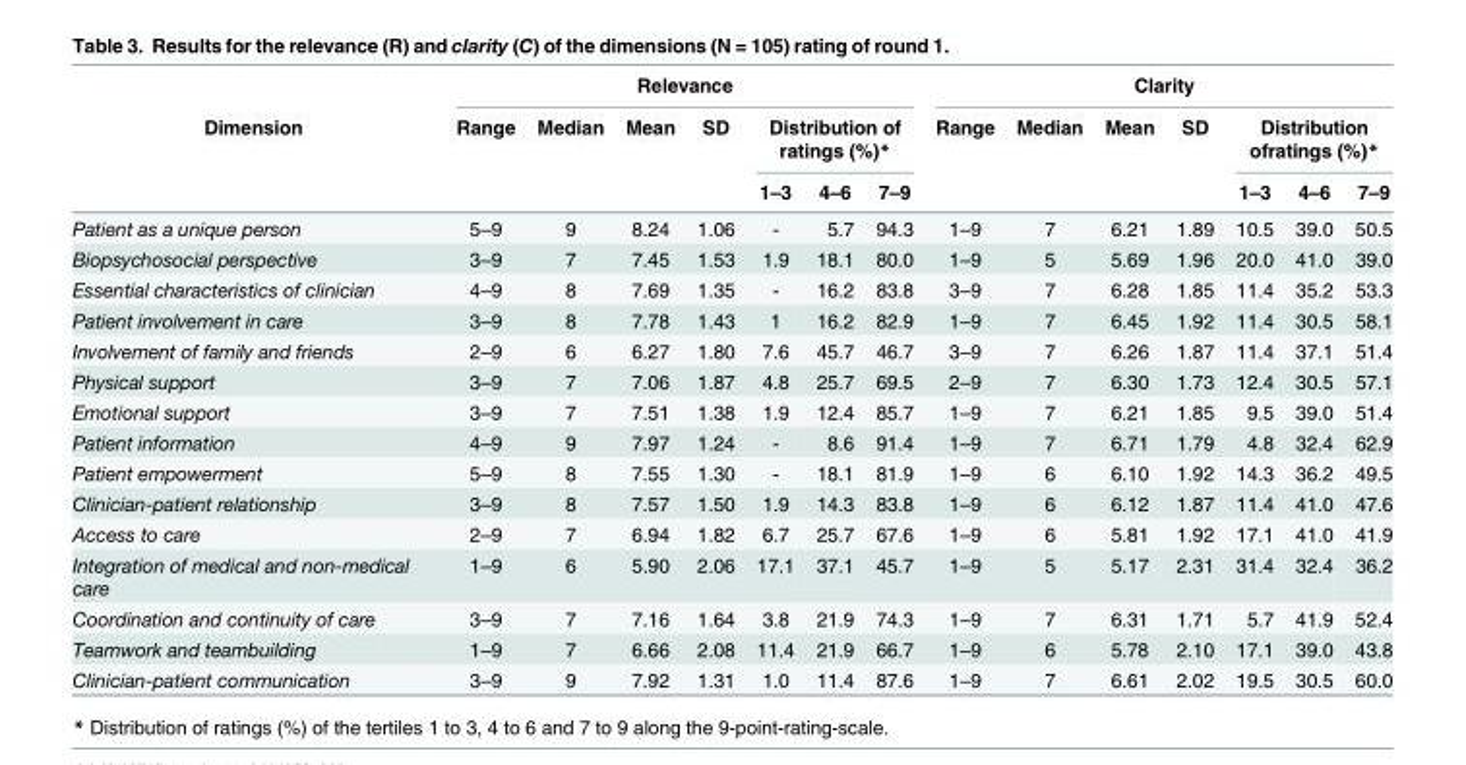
<table><thead><tr><td rowspan="3">Dimension</td><td colspan="7">Relevance</td><td colspan="7">Clarity</td></tr><tr><td rowspan="2">Range</td><td rowspan="2">Median</td><td rowspan="2">Mean</td><td rowspan="2">SD</td><td colspan="3">Distribution of ratings (%)*</td><td rowspan="2">Range</td><td rowspan="2">Median</td><td rowspan="2">Mean</td><td rowspan="2">SD</td><td colspan="3">Distribution ofratings (%)*</td></tr><tr><td>1–3</td><td>4–6</td><td>7–9</td><td>1–3</td><td>4–6</td><td>7–9</td></tr></thead><tbody><tr><td>Patient as a unique person</td><td>5–9</td><td>9</td><td>8.24</td><td>1.06</td><td>-</td><td>5.7</td><td>94.3</td><td>1–9</td><td>7</td><td>6.21</td><td>1.89</td><td>10.5</td><td>39.0</td><td>50.5</td></tr><tr><td>Biopsychosocial perspective</td><td>3–9</td><td>7</td><td>7.45</td><td>1.53</td><td>1.9</td><td>18.1</td><td>80.0</td><td>1–9</td><td>5</td><td>5.69</td><td>1.96</td><td>20.0</td><td>41.0</td><td>39.0</td></tr><tr><td>Essential characteristics of clinician</td><td>4–9</td><td>8</td><td>7.69</td><td>1.35</td><td>-</td><td>16.2</td><td>83.8</td><td>3–9</td><td>7</td><td>6.28</td><td>1.85</td><td>11.4</td><td>35.2</td><td>53.3</td></tr><tr><td>Patient involvement in care</td><td>3–9</td><td>8</td><td>7.78</td><td>1.43</td><td>1</td><td>16.2</td><td>82.9</td><td>1–9</td><td>7</td><td>6.45</td><td>1.92</td><td>11.4</td><td>30.5</td><td>58.1</td></tr><tr><td>Involvement of family and friends</td><td>2–9</td><td>6</td><td>6.27</td><td>1.80</td><td>7.6</td><td>45.7</td><td>46.7</td><td>3–9</td><td>7</td><td>6.26</td><td>1.87</td><td>11.4</td><td>37.1</td><td>51.4</td></tr><tr><td>Physical support</td><td>3–9</td><td>7</td><td>7.06</td><td>1.87</td><td>4.8</td><td>25.7</td><td>69.5</td><td>2–9</td><td>7</td><td>6.30</td><td>1.73</td><td>12.4</td><td>30.5</td><td>57.1</td></tr><tr><td>Emotional support</td><td>3–9</td><td>7</td><td>7.51</td><td>1.38</td><td>1.9</td><td>12.4</td><td>85.7</td><td>1–9</td><td>7</td><td>6.21</td><td>1.85</td><td>9.5</td><td>39.0</td><td>51.4</td></tr><tr><td>Patient information</td><td>4–9</td><td>9</td><td>7.97</td><td>1.24</td><td>-</td><td>8.6</td><td>91.4</td><td>1–9</td><td>7</td><td>6.71</td><td>1.79</td><td>4.8</td><td>32.4</td><td>62.9</td></tr><tr><td>Patient empowerment</td><td>5–9</td><td>8</td><td>7.55</td><td>1.30</td><td>-</td><td>18.1</td><td>81.9</td><td>1–9</td><td>6</td><td>6.10</td><td>1.92</td><td>14.3</td><td>36.2</td><td>49.5</td></tr><tr><td>Clinician-patient relationship</td><td>3–9</td><td>8</td><td>7.57</td><td>1.50</td><td>1.9</td><td>14.3</td><td>83.8</td><td>1–9</td><td>6</td><td>6.12</td><td>1.87</td><td>11.4</td><td>41.0</td><td>47.6</td></tr><tr><td>Access to care</td><td>2–9</td><td>7</td><td>6.94</td><td>1.82</td><td>6.7</td><td>25.7</td><td>67.6</td><td>1–9</td><td>6</td><td>5.81</td><td>1.92</td><td>17.1</td><td>41.0</td><td>41.9</td></tr><tr><td>Integration of medical and non-medical care</td><td>1–9</td><td>6</td><td>5.90</td><td>2.06</td><td>17.1</td><td>37.1</td><td>45.7</td><td>1–9</td><td>5</td><td>5.17</td><td>2.31</td><td>31.4</td><td>32.4</td><td>36.2</td></tr><tr><td>Coordination and continuity of care</td><td>3–9</td><td>7</td><td>7.16</td><td>1.64</td><td>3.8</td><td>21.9</td><td>74.3</td><td>1–9</td><td>7</td><td>6.31</td><td>1.71</td><td>5.7</td><td>41.9</td><td>52.4</td></tr><tr><td>Teamwork and teambuilding</td><td>1–9</td><td>7</td><td>6.66</td><td>2.08</td><td>11.4</td><td>21.9</td><td>66.7</td><td>1–9</td><td>6</td><td>5.78</td><td>2.10</td><td>17.1</td><td>39.0</td><td>43.8</td></tr><tr><td>Clinician-patient communication</td><td>3–9</td><td>9</td><td>7.92</td><td>1.31</td><td>1.0</td><td>11.4</td><td>87.6</td><td>1–9</td><td>7</td><td>6.61</td><td>2.02</td><td>19.5</td><td>30.5</td><td>60.0</td></tr></tbody></table>